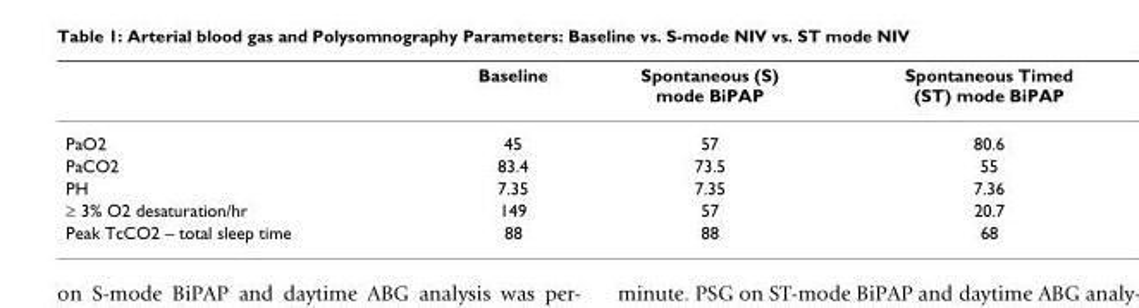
<table><thead><tr><td></td><td>Baseline</td><td>Spontaneous (S) mode BiPAP</td><td>Spontaneous Timed (ST) mode BiPAP</td></tr></thead><tbody><tr><td>PaO2</td><td>45</td><td>57</td><td>80.6</td></tr><tr><td>PaCO2</td><td>83.4</td><td>73.5</td><td>55</td></tr><tr><td>PH</td><td>7.35</td><td>7.35</td><td>7.36</td></tr><tr><td>≥ 3% O2 desaturation/hr</td><td>149</td><td>57</td><td>20.7</td></tr><tr><td>Peak TcCO2 – total sleep time</td><td>88</td><td>88</td><td>68</td></tr></tbody></table>